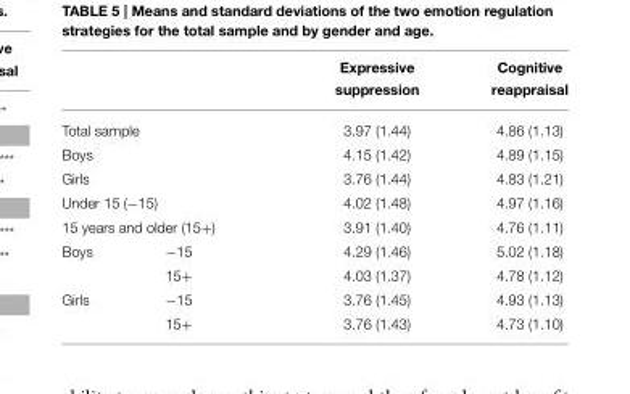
<table><thead><tr><td></td><td></td><td>Expressive suppression</td><td>Cognitive reappraisal</td></tr></thead><tbody><tr><td colspan="2">Total sample</td><td>3.97 (1.44)</td><td>4.86 (1.13)</td></tr><tr><td colspan="2">Boys</td><td>4.15 (1.42)</td><td>4.89 (1.15)</td></tr><tr><td colspan="2">Girls</td><td>3.76 (1.44)</td><td>4.83 (1.21)</td></tr><tr><td colspan="2">Under 15 (−15)</td><td>4.02 (1.48)</td><td>4.97 (1.16)</td></tr><tr><td colspan="2">15 years and older (15+)</td><td>3.91 (1.40)</td><td>4.76 (1.11)</td></tr><tr><td rowspan="2">Boys</td><td>−15</td><td>4.29 (1.46)</td><td>5.02 (1.18)</td></tr><tr><td>15+</td><td>4.03 (1.37)</td><td>4.78 (1.12)</td></tr><tr><td rowspan="2">Girls</td><td>−15</td><td>3.76 (1.45)</td><td>4.93 (1.13)</td></tr><tr><td>15+</td><td>3.76 (1.43)</td><td>4.73 (1.10)</td></tr></tbody></table>